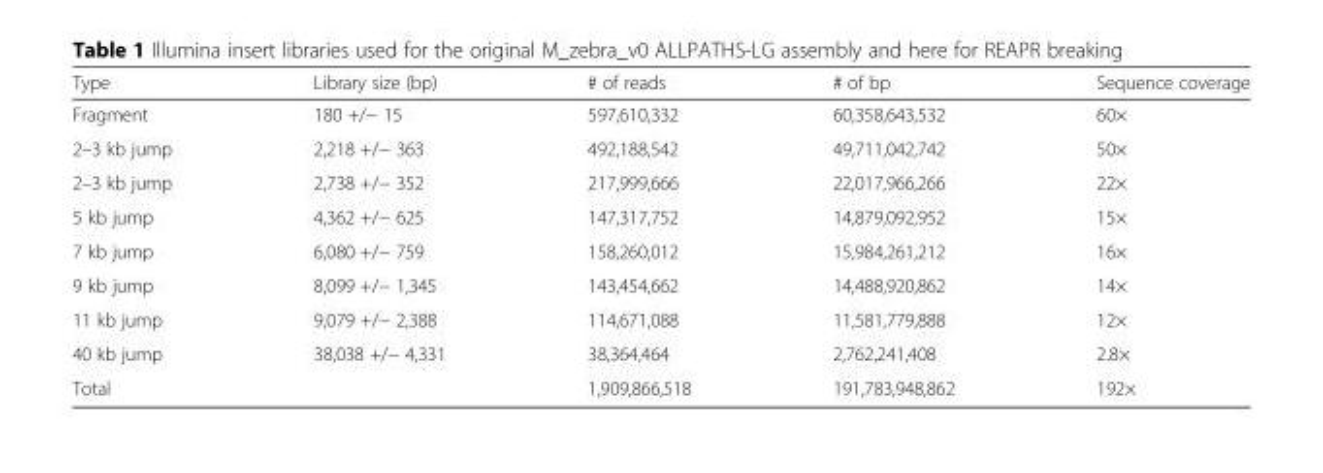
<table><thead><tr><td>Type</td><td>Library size (bp)</td><td># of reads</td><td># of bp</td><td>Sequence coverage</td></tr></thead><tbody><tr><td>Fragment</td><td>180 +/− 15</td><td>597,610,332</td><td>60,358,643,532</td><td>60×</td></tr><tr><td>2–3 kb jump</td><td>2,218 +/− 363</td><td>492,188,542</td><td>49,711,042,742</td><td>50×</td></tr><tr><td>2–3 kb jump</td><td>2,738 +/− 352</td><td>217,999,666</td><td>22,017,966,266</td><td>22×</td></tr><tr><td>5 kb jump</td><td>4,362 +/− 625</td><td>147,317,752</td><td>14,879,092,952</td><td>15×</td></tr><tr><td>7 kb jump</td><td>6,080 +/− 759</td><td>158,260,012</td><td>15,984,261,212</td><td>16×</td></tr><tr><td>9 kb jump</td><td>8,099 +/− 1,345</td><td>143,454,662</td><td>14,488,920,862</td><td>14×</td></tr><tr><td>11 kb jump</td><td>9,079 +/− 2,388</td><td>114,671,088</td><td>11,581,779,888</td><td>12×</td></tr><tr><td>40 kb jump</td><td>38,038 +/− 4,331</td><td>38,364,464</td><td>2,762,241,408</td><td>2.8×</td></tr><tr><td>Total</td><td></td><td>1,909,866,518</td><td>191,783,948,862</td><td>192×</td></tr></tbody></table>